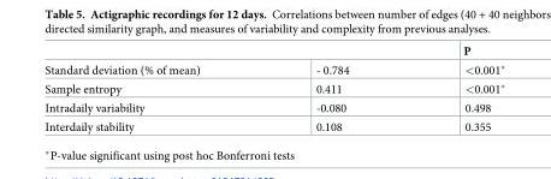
<table><thead><tr><td></td><td></td><td>P</td></tr></thead><tbody><tr><td>Standard deviation (% of mean)</td><td>- 0.784</td><td>&lt;0.001*</td></tr><tr><td>Sample entropy</td><td>0.411</td><td>&lt;0.001*</td></tr><tr><td>Intradaily variability</td><td>-0.080</td><td>0.498</td></tr><tr><td>Interdaily stability</td><td>0.108</td><td>0.355</td></tr></tbody></table>